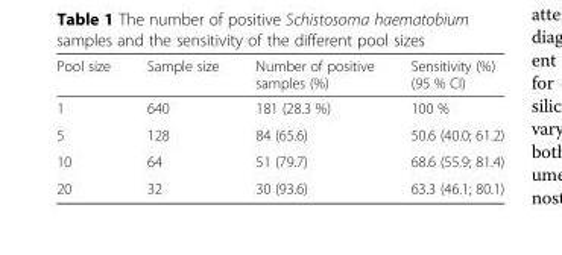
<table><thead><tr><td>Pool size</td><td>Sample size</td><td>Number of positive samples (%)</td><td>Sensitivity (%) (95 % CI)</td></tr></thead><tbody><tr><td>1</td><td>640</td><td>181 (28.3 %)</td><td>100 %</td></tr><tr><td>5</td><td>128</td><td>84 (65.6)</td><td>50.6 (40.0; 61.2)</td></tr><tr><td>10</td><td>64</td><td>51 (79.7)</td><td>68.6 (55.9; 81.4)</td></tr><tr><td>20</td><td>32</td><td>30 (93.6)</td><td>63.3 (46.1; 80.1)</td></tr></tbody></table>